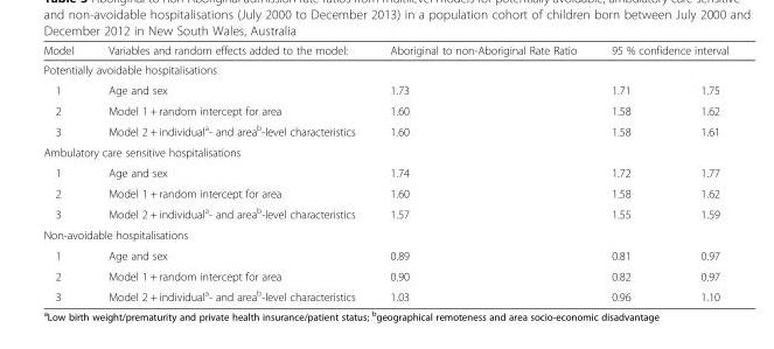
<table><thead><tr><td>Model</td><td>Variables and random effects added to the model:</td><td>Aboriginal to non-Aboriginal Rate Ratio</td><td colspan="2">95 % confidence interval</td></tr><tr><td colspan="5">Potentially avoidable hospitalisations</td></tr><tr><td>1</td><td>Age and sex</td><td>1.73</td><td>1.71</td><td>1.75</td></tr></thead><tbody><tr><td>2</td><td>Model 1 + random intercept for area</td><td>1.60</td><td>1.58</td><td>1.62</td></tr><tr><td>3</td><td>Model 2 + individual<sup>a</sup>- and area<sup>b</sup>-level characteristics</td><td>1.60</td><td>1.58</td><td>1.61</td></tr><tr><td colspan="5">Ambulatory care sensitive hospitalisations</td></tr><tr><td>1</td><td>Age and sex</td><td>1.74</td><td>1.72</td><td>1.77</td></tr><tr><td>2</td><td>Model 1 + random intercept for area</td><td>1.60</td><td>1.58</td><td>1.62</td></tr><tr><td>3</td><td>Model 2 + individual<sup>a</sup>- and area<sup>b</sup>-level characteristics</td><td>1.57</td><td>1.55</td><td>1.59</td></tr><tr><td colspan="5">Non-avoidable hospitalisations</td></tr><tr><td>1</td><td>Age and sex</td><td>0.89</td><td>0.81</td><td>0.97</td></tr><tr><td>2</td><td>Model 1 + random intercept for area</td><td>0.90</td><td>0.82</td><td>0.97</td></tr><tr><td>3</td><td>Model 2 + individual<sup>a</sup>- and area<sup>b</sup>-level characteristics</td><td>1.03</td><td>0.96</td><td>1.10</td></tr></tbody></table>